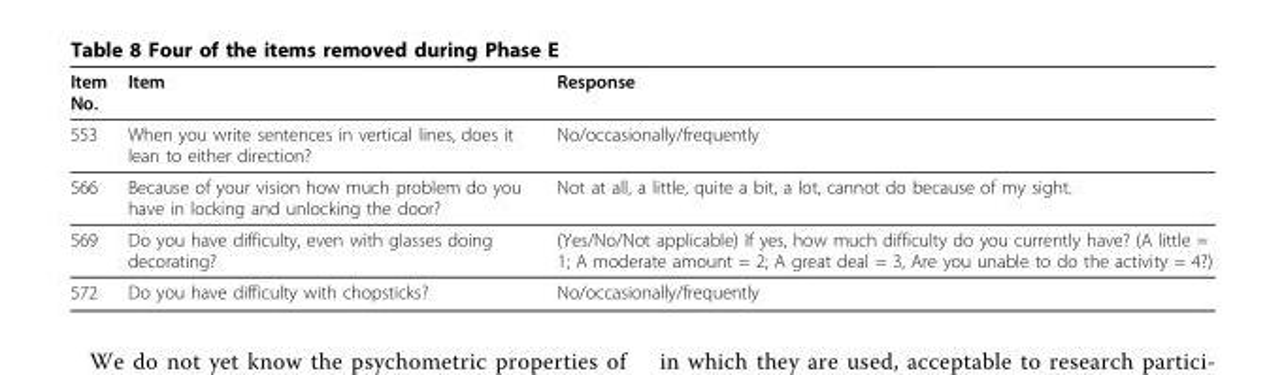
<table><thead><tr><td>Item No.</td><td>Item</td><td>Response</td></tr></thead><tbody><tr><td>553</td><td>When you write sentences in vertical lines, does it lean to either direction?</td><td>No/occasionally/frequently</td></tr><tr><td>566</td><td>Because of your vision how much problem do you have in locking and unlocking the door?</td><td>Not at all, a little, quite a bit, a lot, cannot do because of my sight.</td></tr><tr><td>569</td><td>Do you have difficulty, even with glasses doing decorating?</td><td>(Yes/No/Not applicable) If yes, how much difficulty do you currently have? (A little = 1; A moderate amount = 2; A great deal = 3, Are you unable to do the activity = 4?)</td></tr><tr><td>572</td><td>Do you have difficulty with chopsticks?</td><td>No/occasionally/frequently</td></tr></tbody></table>